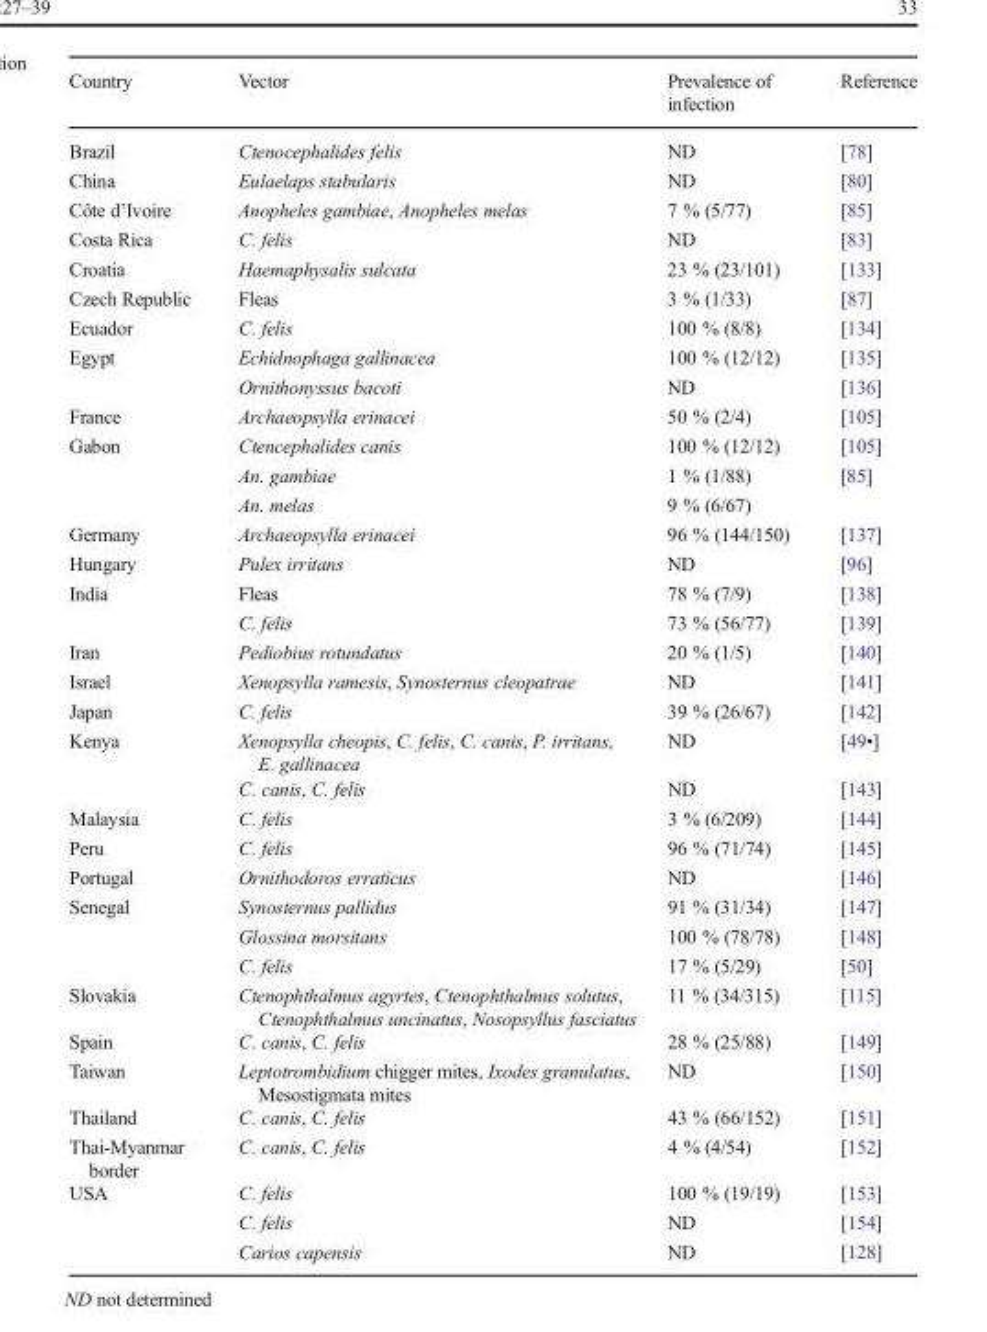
<table><thead><tr><td>Country</td><td>Vector</td><td>Prevalence of infection</td><td>Reference</td></tr></thead><tbody><tr><td>Brazil</td><td>Ctenocephalides felis</td><td>ND</td><td>[78]</td></tr><tr><td>China</td><td>Eulaelaps stabularis</td><td>ND</td><td>[80]</td></tr><tr><td>Côte d’Ivoire</td><td>Anopheles gambiae, Anopheles melas</td><td>7 % (5/77)</td><td>[85]</td></tr><tr><td>Costa Rica</td><td>C. felis</td><td>ND</td><td>[83]</td></tr><tr><td>Croatia</td><td>Haemaphysalis sulcata</td><td>23 % (23/101)</td><td>[133]</td></tr><tr><td>Czech Republic</td><td>Fleas</td><td>3 % (1/33)</td><td>[87]</td></tr><tr><td>Ecuador</td><td>C. felis</td><td>100 % (8/8)</td><td>[134]</td></tr><tr><td rowspan="2">Egypt</td><td>Echidnophaga gallinacea</td><td>100 % (12/12)</td><td>[135]</td></tr><tr><td>Ornithonyssus bacoti</td><td>ND</td><td>[136]</td></tr><tr><td>France</td><td>Archaeopsylla erinacei</td><td>50 % (2/4)</td><td>[105]</td></tr><tr><td rowspan="3">Gabon</td><td>Ctencephalides canis</td><td>100 % (12/12)</td><td>[105]</td></tr><tr><td>An. gambiae</td><td>1 % (1/88)</td><td>[85]</td></tr><tr><td>An. melas</td><td>9 % (6/67)</td><td></td></tr><tr><td>Germany</td><td>Archaeopsylla erinacei</td><td>96 % (144/150)</td><td>[137]</td></tr><tr><td>Hungary</td><td>Pulex irritans</td><td>ND</td><td>[96]</td></tr><tr><td rowspan="2">India</td><td>Fleas</td><td>78 % (7/9)</td><td>[138]</td></tr><tr><td>C. felis</td><td>73 % (56/77)</td><td>[139]</td></tr><tr><td>Iran</td><td>Pediobius rotundatus</td><td>20 % (1/5)</td><td>[140]</td></tr><tr><td>Israel</td><td>Xenopsylla ramesis, Synosternus cleopatrae</td><td>ND</td><td>[141]</td></tr><tr><td>Japan</td><td>C. felis</td><td>39 % (26/67)</td><td>[142]</td></tr><tr><td rowspan="2">Kenya</td><td>Xenopsylla cheopis, C. felis, C. canis, P. irritans, E. gallinacea</td><td>ND</td><td>[49•]</td></tr><tr><td>C. canis, C. felis</td><td>ND</td><td>[143]</td></tr><tr><td>Malaysia</td><td>C. felis</td><td>3 % (6/209)</td><td>[144]</td></tr><tr><td>Peru</td><td>C. felis</td><td>96 % (71/74)</td><td>[145]</td></tr><tr><td>Portugal</td><td>Ornithodoros erraticus</td><td>ND</td><td>[146]</td></tr><tr><td rowspan="3">Senegal</td><td>Synosternus pallidus</td><td>91 % (31/34)</td><td>[147]</td></tr><tr><td>Glossina morsitans</td><td>100 % (78/78)</td><td>[148]</td></tr><tr><td>C. felis</td><td>17 % (5/29)</td><td>[50]</td></tr><tr><td>Slovakia</td><td>Ctenophthalmus agyrtes, Ctenophthalmus solutus, Ctenophthalmus uncinatus, Nosopsyllus fasciatus</td><td>11 % (34/315)</td><td>[115]</td></tr><tr><td>Spain</td><td>C. canis, C. felis</td><td>28 % (25/88)</td><td>[149]</td></tr><tr><td>Taiwan</td><td>Leptotrombidium chigger mites, Ixodes granulatus, Mesostigmata mites</td><td>ND</td><td>[150]</td></tr><tr><td>Thailand</td><td>C. canis, C. felis</td><td>43 % (66/152)</td><td>[151]</td></tr><tr><td>Thai-Myanmar border</td><td>C. canis, C. felis</td><td>4 % (4/54)</td><td>[152]</td></tr><tr><td rowspan="3">USA</td><td>C. felis</td><td>100 % (19/19)</td><td>[153]</td></tr><tr><td>C. felis</td><td>ND</td><td>[154]</td></tr><tr><td>Carios capensis</td><td>ND</td><td>[128]</td></tr></tbody></table>